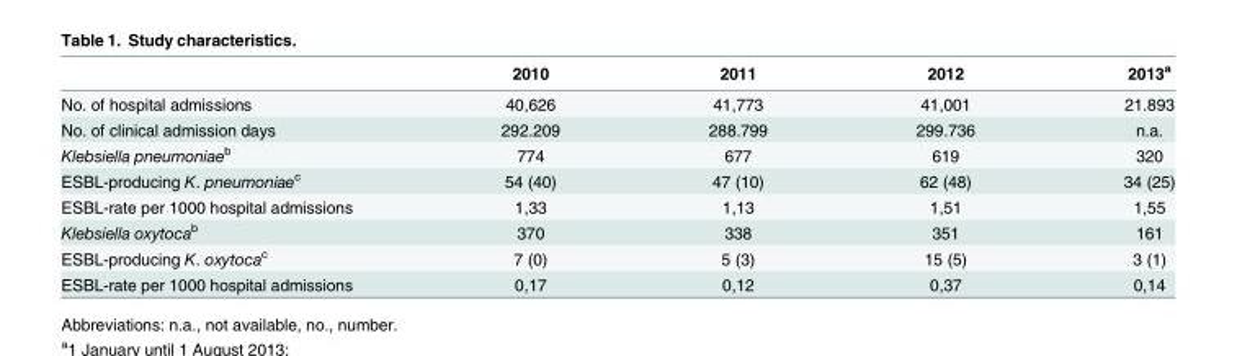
<table><thead><tr><td></td><td>2010</td><td>2011</td><td>2012</td><td>2013<sup>a</sup></td></tr></thead><tbody><tr><td>No. of hospital admissions</td><td>40,626</td><td>41,773</td><td>41,001</td><td>21.893</td></tr><tr><td>No. of clinical admission days</td><td>292.209</td><td>288.799</td><td>299.736</td><td>n.a.</td></tr><tr><td>Klebsiella pneumoniae<sup>b</sup></td><td>774</td><td>677</td><td>619</td><td>320</td></tr><tr><td>ESBL-producing K. pneumoniae<sup>c</sup></td><td>54 (40)</td><td>47 (10)</td><td>62 (48)</td><td>34 (25)</td></tr><tr><td>ESBL-rate per 1000 hospital admissions</td><td>1,33</td><td>1,13</td><td>1,51</td><td>1,55</td></tr><tr><td>Klebsiella oxytoca<sup>b</sup></td><td>370</td><td>338</td><td>351</td><td>161</td></tr><tr><td>ESBL-producing K. oxytoca<sup>c</sup></td><td>7 (0)</td><td>5 (3)</td><td>15 (5)</td><td>3 (1)</td></tr><tr><td>ESBL-rate per 1000 hospital admissions</td><td>0,17</td><td>0,12</td><td>0,37</td><td>0,14</td></tr></tbody></table>